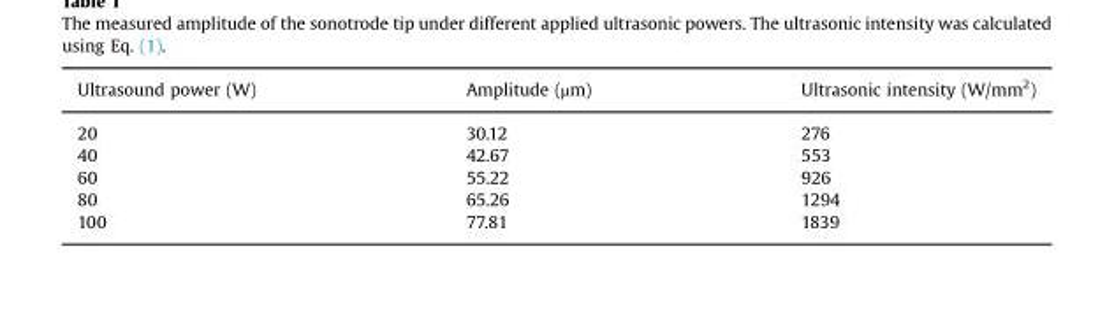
<table><thead><tr><td>Ultrasound power (W)</td><td>Amplitude (µm)</td><td>Ultrasonic intensity (W/mm<sup>2</sup>)</td></tr></thead><tbody><tr><td>20</td><td>30.12</td><td>276</td></tr><tr><td>40</td><td>42.67</td><td>553</td></tr><tr><td>60</td><td>55.22</td><td>926</td></tr><tr><td>80</td><td>65.26</td><td>1294</td></tr><tr><td>100</td><td>77.81</td><td>1839</td></tr></tbody></table>